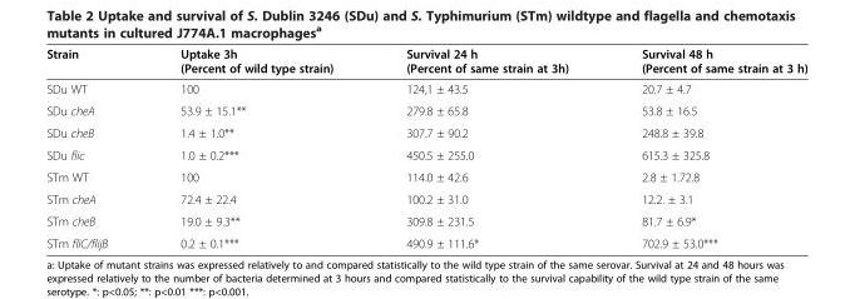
<table><thead><tr><td>Strain</td><td>Uptake 3h (Percent of wild type strain)</td><td>Survival 24 h (Percent of same strain at 3h)</td><td>Survival 48 h (Percent of same strain at 3 h)</td></tr></thead><tbody><tr><td>SDu WT</td><td>100</td><td>124,1 ± 43.5</td><td>20.7 ± 4.7</td></tr><tr><td>SDu cheA</td><td>53.9 ± 15.1**</td><td>279.8 ± 65.8</td><td>53.8 ± 16.5</td></tr><tr><td>SDu cheB</td><td>1.4 ± 1.0**</td><td>307.7 ± 90.2</td><td>248.8 ± 39.8</td></tr><tr><td>SDu flic</td><td>1.0 ± 0.2***</td><td>450.5 ± 255.0</td><td>615.3 ± 325.8</td></tr><tr><td>STm WT</td><td>100</td><td>114.0 ± 42.6</td><td>2.8 ± 1.72.8</td></tr><tr><td>STm cheA</td><td>72.4 ± 22.4</td><td>100.2 ± 31.0</td><td>12.2. ± 3.1</td></tr><tr><td>STm cheB</td><td>19.0 ± 9.3**</td><td>309.8 ± 231.5</td><td>81.7 ± 6.9*</td></tr><tr><td>STm fliC/flijB</td><td>0.2 ± 0.1***</td><td>490.9 ± 111.6*</td><td>702.9 ± 53.0***</td></tr></tbody></table>